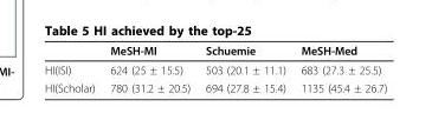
<table><thead><tr><td></td><td>MeSH-MI</td><td>Schuemie</td><td>MeSH-Med</td></tr></thead><tbody><tr><td>HI(ISI)</td><td>624 (25 ± 15.5)</td><td>503 (20.1 ± 11.1)</td><td>683 (27.3 ± 25.5)</td></tr><tr><td>HI(Scholar)</td><td>780 (31.2 ± 20.5)</td><td>694 (27.8 ± 15.4)</td><td>1135 (45.4 ± 26.7)</td></tr></tbody></table>